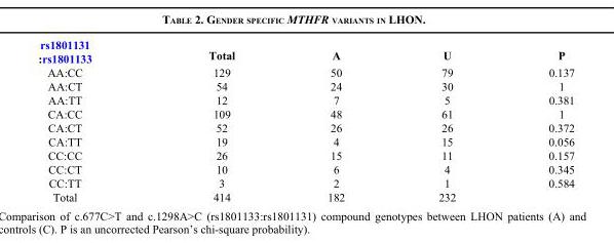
<table><thead><tr><td>rs1801131 :rs1801133</td><td>Total</td><td>A</td><td>U</td><td>P</td></tr></thead><tbody><tr><td>AA:CC</td><td>129</td><td>50</td><td>79</td><td>0.137</td></tr><tr><td>AA:CT</td><td>54</td><td>24</td><td>30</td><td>1</td></tr><tr><td>AA:TT</td><td>12</td><td>7</td><td>5</td><td>0.381</td></tr><tr><td>CA:CC</td><td>109</td><td>48</td><td>61</td><td>1</td></tr><tr><td>CA:CT</td><td>52</td><td>26</td><td>26</td><td>0.372</td></tr><tr><td>CA:TT</td><td>19</td><td>4</td><td>15</td><td>0.056</td></tr><tr><td>CC:CC</td><td>26</td><td>15</td><td>11</td><td>0.157</td></tr><tr><td>CC:CT</td><td>10</td><td>6</td><td>4</td><td>0.345</td></tr><tr><td>CC:TT</td><td>3</td><td>2</td><td>1</td><td>0.584</td></tr><tr><td>Total</td><td>414</td><td>182</td><td>232</td><td></td></tr></tbody></table>